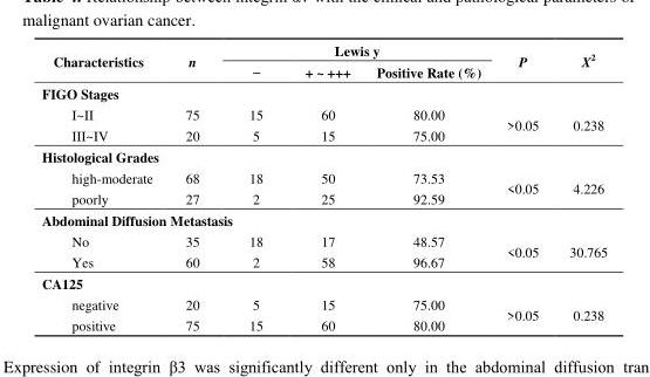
<table><thead><tr><td rowspan="2">Characteristics</td><td rowspan="2">n</td><td colspan="3">Lewis y</td><td rowspan="2">P</td><td rowspan="2">X<sup>2</sup></td></tr><tr><td>−</td><td>+ ~ +++</td><td>Positive Rate (%)</td></tr></thead><tbody><tr><td colspan="7">FIGO Stages</td></tr><tr><td>I~II</td><td>75</td><td>15</td><td>60</td><td>80.00</td><td rowspan="2">&gt;0.05</td><td rowspan="2">0.238</td></tr><tr><td>III~IV</td><td>20</td><td>5</td><td>15</td><td>75.00</td></tr><tr><td colspan="7">Histological Grades</td></tr><tr><td>high-moderate</td><td>68</td><td>18</td><td>50</td><td>73.53</td><td rowspan="2">&lt;0.05</td><td rowspan="2">4.226</td></tr><tr><td>poorly</td><td>27</td><td>2</td><td>25</td><td>92.59</td></tr><tr><td colspan="7">Abdominal Diffusion Metastasis</td></tr><tr><td>No</td><td>35</td><td>18</td><td>17</td><td>48.57</td><td rowspan="2">&lt;0.05</td><td rowspan="2">30.765</td></tr><tr><td>Yes</td><td>60</td><td>2</td><td>58</td><td>96.67</td></tr><tr><td colspan="7">CA125</td></tr><tr><td>negative</td><td>20</td><td>5</td><td>15</td><td>75.00</td><td rowspan="2">&gt;0.05</td><td rowspan="2">0.238</td></tr><tr><td>positive</td><td>75</td><td>15</td><td>60</td><td>80.00</td></tr></tbody></table>